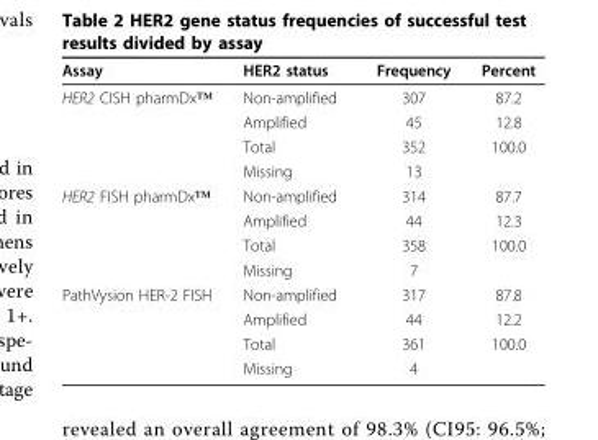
<table><thead><tr><td>Assay</td><td>HER2 status</td><td>Frequency</td><td>Percent</td></tr></thead><tbody><tr><td rowspan="4">HER2 CISH pharmDx™</td><td>Non-amplified</td><td>307</td><td>87.2</td></tr><tr><td>Amplified</td><td>45</td><td>12.8</td></tr><tr><td>Total</td><td>352</td><td>100.0</td></tr><tr><td>Missing</td><td>13</td><td></td></tr><tr><td rowspan="4">HER2 FISH pharmDx™</td><td>Non-amplified</td><td>314</td><td>87.7</td></tr><tr><td>Amplified</td><td>44</td><td>12.3</td></tr><tr><td>Total</td><td>358</td><td>100.0</td></tr><tr><td>Missing</td><td>7</td><td></td></tr><tr><td rowspan="4">PathVysion HER-2 FISH</td><td>Non-amplified</td><td>317</td><td>87.8</td></tr><tr><td>Amplified</td><td>44</td><td>12.2</td></tr><tr><td>Total</td><td>361</td><td>100.0</td></tr><tr><td>Missing</td><td>4</td><td></td></tr></tbody></table>